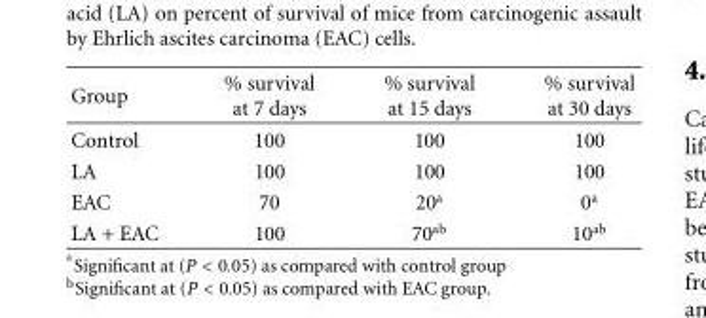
<table><thead><tr><td>Group</td><td>% survival at 7 days</td><td>% survival at 15 days</td><td>% survival at 30 days</td></tr></thead><tbody><tr><td>Control</td><td>100</td><td>100</td><td>100</td></tr><tr><td>LA</td><td>100</td><td>100</td><td>100</td></tr><tr><td>EAC</td><td>70</td><td>20<sup>a</sup></td><td>0<sup>a</sup></td></tr><tr><td>LA + EAC</td><td>100</td><td>70<sup>ab</sup></td><td>10<sup>ab</sup></td></tr></tbody></table>